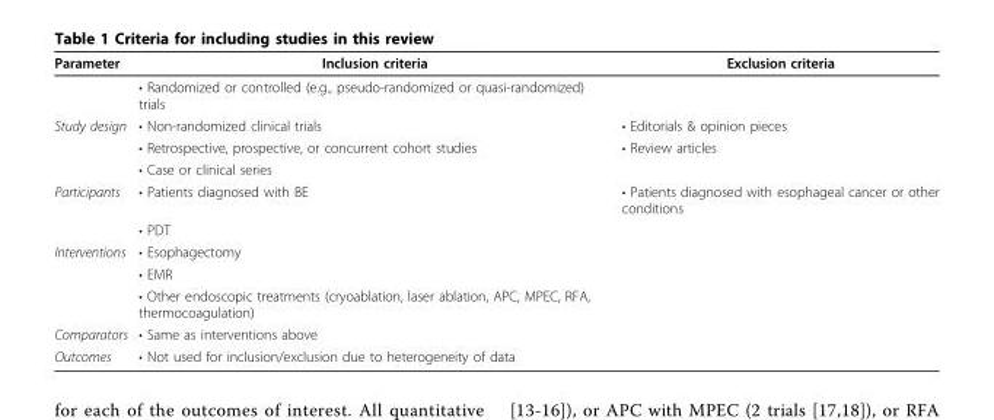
<table><thead><tr><td>Parameter</td><td>Inclusion criteria</td><td>Exclusion criteria</td></tr></thead><tbody><tr><td></td><td>• Randomized or controlled (e.g., pseudo-randomized or quasi-randomized) trials</td><td></td></tr><tr><td rowspan="3">Study design</td><td>• Non-randomized clinical trials</td><td>• Editorials &amp; opinion pieces</td></tr><tr><td>• Retrospective, prospective, or concurrent cohort studies</td><td>• Review articles</td></tr><tr><td>• Case or clinical series</td><td></td></tr><tr><td rowspan="2">Participants</td><td>• Patients diagnosed with BE</td><td>• Patients diagnosed with esophageal cancer or other conditions</td></tr><tr><td>• PDT</td><td></td></tr><tr><td rowspan="3">Interventions</td><td>• Esophagectomy</td><td></td></tr><tr><td>• EMR</td><td></td></tr><tr><td>• Other endoscopic treatments (cryoablation, laser ablation, APC, MPEC, RFA, thermocoagulation)</td><td></td></tr><tr><td>Comparators</td><td>• Same as interventions above</td><td></td></tr><tr><td>Outcomes</td><td>• Not used for inclusion/exclusion due to heterogeneity of data</td><td></td></tr></tbody></table>